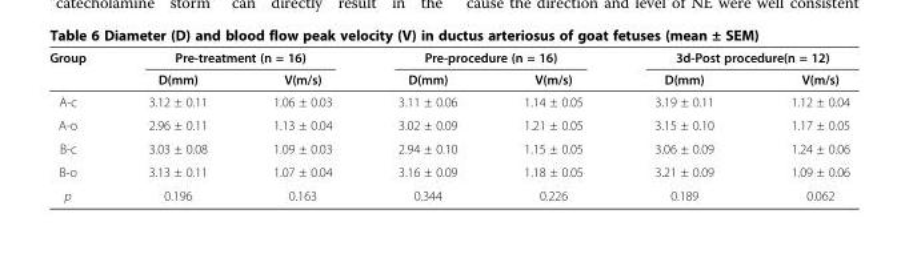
<table><thead><tr><td rowspan="2">Group</td><td colspan="2">Pre-treatment (n = 16)</td><td colspan="2">Pre-procedure (n = 16)</td><td colspan="2">3d-Post procedure(n = 12)</td></tr><tr><td>D(mm)</td><td>V(m/s)</td><td>D(mm)</td><td>V(m/s)</td><td>D(mm)</td><td>V(m/s)</td></tr></thead><tbody><tr><td>A-c</td><td>3.12 ± 0.11</td><td>1.06 ± 0.03</td><td>3.11 ± 0.06</td><td>1.14 ± 0.05</td><td>3.19 ± 0.11</td><td>1.12 ± 0.04</td></tr><tr><td>A-o</td><td>2.96 ± 0.11</td><td>1.13 ± 0.04</td><td>3.02 ± 0.09</td><td>1.21 ± 0.05</td><td>3.15 ± 0.10</td><td>1.17 ± 0.05</td></tr><tr><td>B-c</td><td>3.03 ± 0.08</td><td>1.09 ± 0.03</td><td>2.94 ± 0.10</td><td>1.15 ± 0.05</td><td>3.06 ± 0.09</td><td>1.24 ± 0.06</td></tr><tr><td>B-o</td><td>3.13 ± 0.11</td><td>1.07 ± 0.04</td><td>3.16 ± 0.09</td><td>1.18 ± 0.05</td><td>3.21 ± 0.09</td><td>1.09 ± 0.06</td></tr><tr><td>p</td><td>0.196</td><td>0.163</td><td>0.344</td><td>0.226</td><td>0.189</td><td>0.062</td></tr></tbody></table>